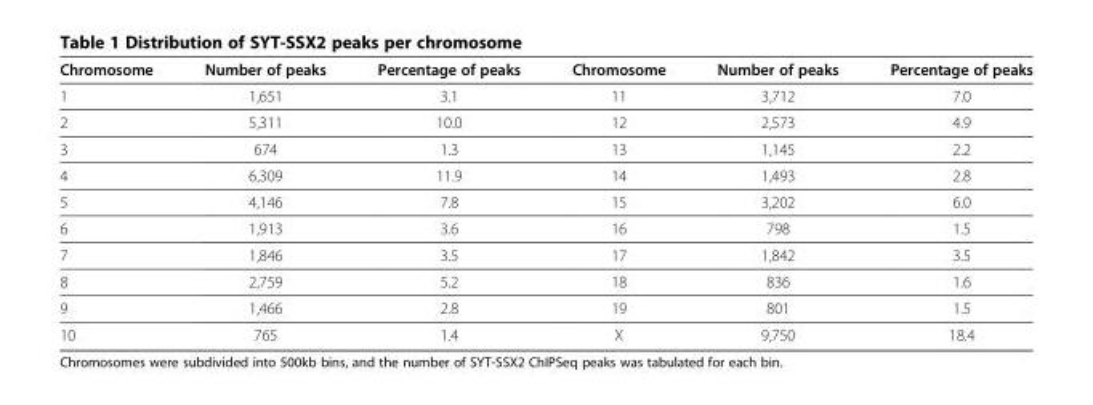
<table><thead><tr><td>Chromosome</td><td>Number of peaks</td><td>Percentage of peaks</td><td>Chromosome</td><td>Number of peaks</td><td>Percentage of peaks</td></tr></thead><tbody><tr><td>1</td><td>1,651</td><td>3.1</td><td>11</td><td>3,712</td><td>7.0</td></tr><tr><td>2</td><td>5,311</td><td>10.0</td><td>12</td><td>2,573</td><td>4.9</td></tr><tr><td>3</td><td>674</td><td>1.3</td><td>13</td><td>1,145</td><td>2.2</td></tr><tr><td>4</td><td>6,309</td><td>11.9</td><td>14</td><td>1,493</td><td>2.8</td></tr><tr><td>5</td><td>4,146</td><td>7.8</td><td>15</td><td>3,202</td><td>6.0</td></tr><tr><td>6</td><td>1,913</td><td>3.6</td><td>16</td><td>798</td><td>1.5</td></tr><tr><td>7</td><td>1,846</td><td>3.5</td><td>17</td><td>1,842</td><td>3.5</td></tr><tr><td>8</td><td>2,759</td><td>5.2</td><td>18</td><td>836</td><td>1.6</td></tr><tr><td>9</td><td>1,466</td><td>2.8</td><td>19</td><td>801</td><td>1.5</td></tr><tr><td>10</td><td>765</td><td>1.4</td><td>X</td><td>9,750</td><td>18.4</td></tr></tbody></table>